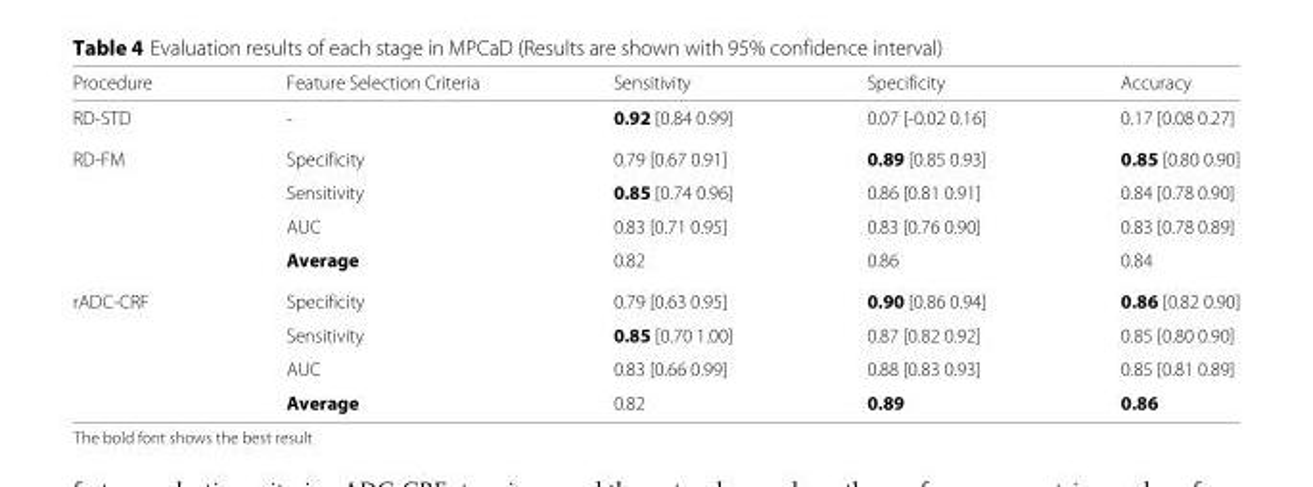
<table><thead><tr><td>Procedure</td><td>Feature Selection Criteria</td><td>Sensitivity</td><td>Specificity</td><td>Accuracy</td></tr></thead><tbody><tr><td>RD-STD</td><td>-</td><td>0.92 [0.84 0.99]</td><td>0.07 [-0.02 0.16]</td><td>0.17 [0.08 0.27]</td></tr><tr><td rowspan="4">RD-FM</td><td>Specificity</td><td>0.79 [0.67 0.91]</td><td>0.89 [0.85 0.93]</td><td>0.85 [0.80 0.90]</td></tr><tr><td>Sensitivity</td><td>0.85 [0.74 0.96]</td><td>0.86 [0.81 0.91]</td><td>0.84 [0.78 0.90]</td></tr><tr><td>AUC</td><td>0.83 [0.71 0.95]</td><td>0.83 [0.76 0.90]</td><td>0.83 [0.78 0.89]</td></tr><tr><td>Average</td><td>0.82</td><td>0.86</td><td>0.84</td></tr><tr><td rowspan="4">rADC-CRF</td><td>Specificity</td><td>0.79 [0.63 0.95]</td><td>0.90 [0.86 0.94]</td><td>0.86 [0.82 0.90]</td></tr><tr><td>Sensitivity</td><td>0.85 [0.70 1.00]</td><td>0.87 [0.82 0.92]</td><td>0.85 [0.80 0.90]</td></tr><tr><td>AUC</td><td>0.83 [0.66 0.99]</td><td>0.88 [0.83 0.93]</td><td>0.85 [0.81 0.89]</td></tr><tr><td>Average</td><td>0.82</td><td>0.89</td><td>0.86</td></tr></tbody></table>